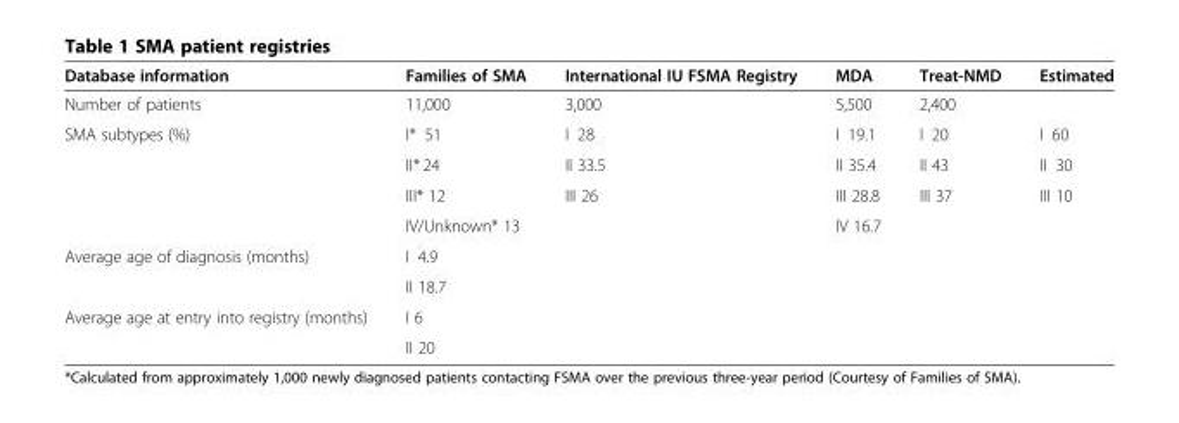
<table><thead><tr><td>Database information</td><td>Families of SMA</td><td>International IU FSMA Registry</td><td>MDA</td><td>Treat-NMD</td><td>Estimated</td></tr></thead><tbody><tr><td>Number of patients</td><td>11,000</td><td>3,000</td><td>5,500</td><td>2,400</td><td></td></tr><tr><td rowspan="4">SMA subtypes (%)</td><td>I* 51</td><td>I 28</td><td>I 19.1</td><td>I 20</td><td>I 60</td></tr><tr><td>II* 24</td><td>II 33.5</td><td>II 35.4</td><td>II 43</td><td>II 30</td></tr><tr><td>III* 12</td><td>III 26</td><td>III 28.8</td><td>III 37</td><td>III 10</td></tr><tr><td>IV/Unknown* 13</td><td></td><td>IV 16.7</td><td></td><td></td></tr><tr><td rowspan="2">Average age of diagnosis (months)</td><td>I 4.9</td><td rowspan="2"></td><td rowspan="2"></td><td rowspan="2"></td><td rowspan="2"></td></tr><tr><td>II 18.7</td></tr><tr><td rowspan="2">Average age at entry into registry (months)</td><td>I 6</td><td rowspan="2"></td><td rowspan="2"></td><td rowspan="2"></td><td rowspan="2"></td></tr><tr><td>II 20</td></tr></tbody></table>